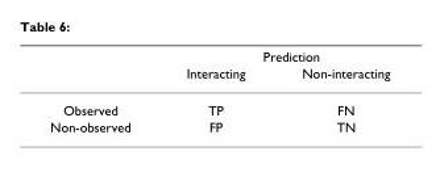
<table><thead><tr><td rowspan="2"></td><td colspan="2">Prediction</td></tr><tr><td>Interacting</td><td>Non-interacting</td></tr></thead><tbody><tr><td>Observed</td><td>TP</td><td>FN</td></tr><tr><td>Non-observed</td><td>FP</td><td>TN</td></tr></tbody></table>